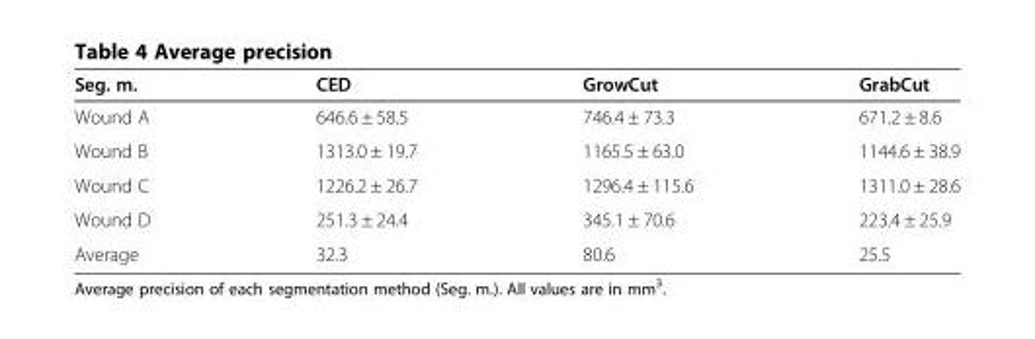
<table><thead><tr><td>Seg. m.</td><td>CED</td><td>GrowCut</td><td>GrabCut</td></tr></thead><tbody><tr><td>Wound A</td><td>646.6 ± 58.5</td><td>746.4 ± 73.3</td><td>671.2 ± 8.6</td></tr><tr><td>Wound B</td><td>1313.0 ± 19.7</td><td>1165.5 ± 63.0</td><td>1144.6 ± 38.9</td></tr><tr><td>Wound C</td><td>1226.2 ± 26.7</td><td>1296.4 ± 115.6</td><td>1311.0 ± 28.6</td></tr><tr><td>Wound D</td><td>251.3 ± 24.4</td><td>345.1 ± 70.6</td><td>223.4 ± 25.9</td></tr><tr><td>Average</td><td>32.3</td><td>80.6</td><td>25.5</td></tr></tbody></table>